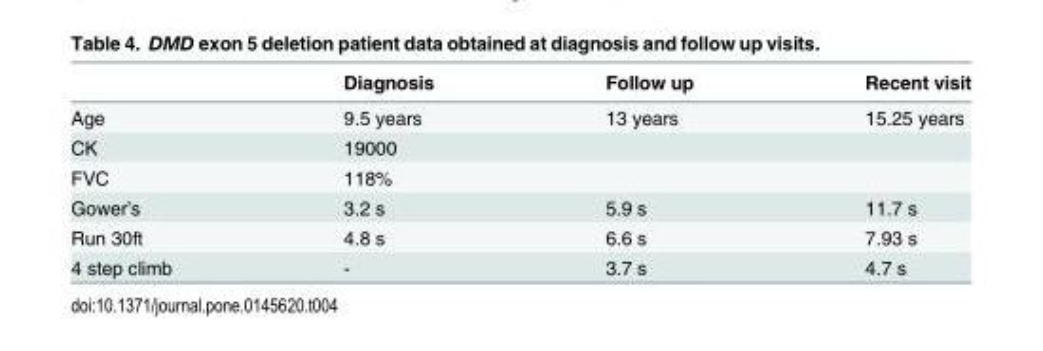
<table><thead><tr><td></td><td>Diagnosis</td><td>Follow up</td><td>Recent visit</td></tr></thead><tbody><tr><td>Age</td><td>9.5 years</td><td>13 years</td><td>15.25 years</td></tr><tr><td>CK</td><td>19000</td><td></td><td></td></tr><tr><td>FVC</td><td>118%</td><td></td><td></td></tr><tr><td>Gower’s</td><td>3.2 s</td><td>5.9 s</td><td>11.7 s</td></tr><tr><td>Run 30ft</td><td>4.8 s</td><td>6.6 s</td><td>7.93 s</td></tr><tr><td>4 step climb</td><td>-</td><td>3.7 s</td><td>4.7 s</td></tr></tbody></table>